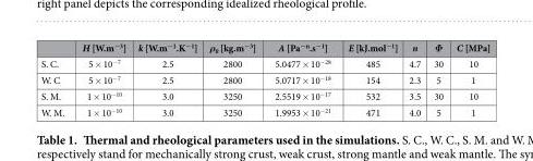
<table><thead><tr><td></td><td>H [W.m<sup>−3</sup>]</td><td>k [W.m<sup>−1</sup>.K<sup>−1</sup>]</td><td>ρ<sub>0</sub> [kg.m<sup>−3</sup>]</td><td>A [Pa<sup>−n</sup>.s<sup>−1</sup>]</td><td>E [kJ.mol<sup>−1</sup>]</td><td>n</td><td>Φ</td><td>C [MPa]</td></tr></thead><tbody><tr><td>S. C.</td><td>5 × 10<sup>−7</sup></td><td>2.5</td><td>2800</td><td>5.0477 × 10<sup>−28</sup></td><td>485</td><td>4.7</td><td>30</td><td>10</td></tr><tr><td>W. C</td><td>5 × 10<sup>−7</sup></td><td>2.5</td><td>2800</td><td>5.0717 × 10<sup>−18</sup></td><td>154</td><td>2.3</td><td>5</td><td>1</td></tr><tr><td>S. M.</td><td>1 × 10<sup>−10</sup></td><td>3.0</td><td>3250</td><td>2.5519 × 10<sup>−17</sup></td><td>532</td><td>3.5</td><td>30</td><td>10</td></tr><tr><td>W. M.</td><td>1 × 10<sup>−10</sup></td><td>3.0</td><td>3250</td><td>1.9953 × 10<sup>−21</sup></td><td>471</td><td>4.0</td><td>5</td><td>1</td></tr></tbody></table>